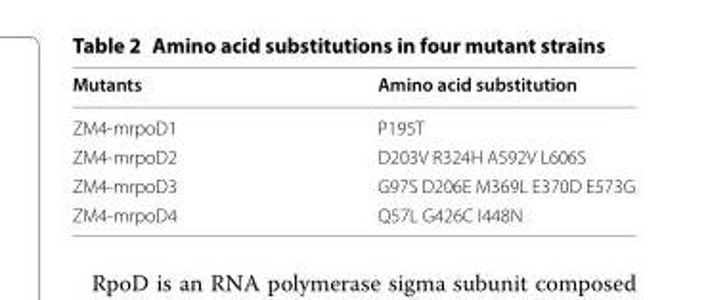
<table><thead><tr><td>Mutants</td><td>Amino acid substitution</td></tr></thead><tbody><tr><td>ZM4-mrpoD1</td><td>P195T</td></tr><tr><td>ZM4-mrpoD2</td><td>D203V R324H A592V L606S</td></tr><tr><td>ZM4-mrpoD3</td><td>G97S D206E M369L E370D E573G</td></tr><tr><td>ZM4-mrpoD4</td><td>Q57L G426C I448N</td></tr></tbody></table>